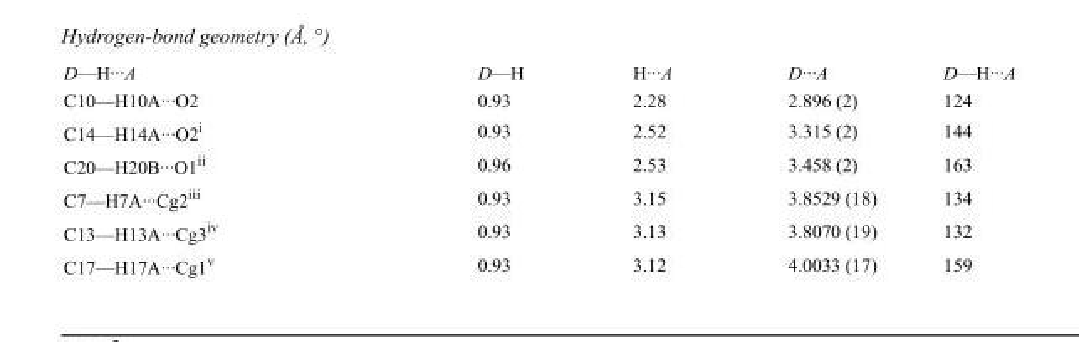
<table><tbody><tr><td>D—H···A</td><td>D—H</td><td>H···A</td><td>D···A</td><td>D—H···A</td></tr><tr><td>C10—H10A···O2</td><td>0.93</td><td>2.28</td><td>2.896 (2)</td><td>124</td></tr><tr><td>C14—H14A···O2<sup>i</sup></td><td>0.93</td><td>2.52</td><td>3.315 (2)</td><td>144</td></tr><tr><td>C20—H20B···O1<sup>ii</sup></td><td>0.96</td><td>2.53</td><td>3.458 (2)</td><td>163</td></tr><tr><td>C7—H7A···Cg2<sup>iii</sup></td><td>0.93</td><td>3.15</td><td>3.8529 (18)</td><td>134</td></tr><tr><td>C13—H13A···Cg3<sup>iv</sup></td><td>0.93</td><td>3.13</td><td>3.8070 (19)</td><td>132</td></tr><tr><td>C17—H17A···Cg1<sup>v</sup></td><td>0.93</td><td>3.12</td><td>4.0033 (17)</td><td>159</td></tr></tbody></table>